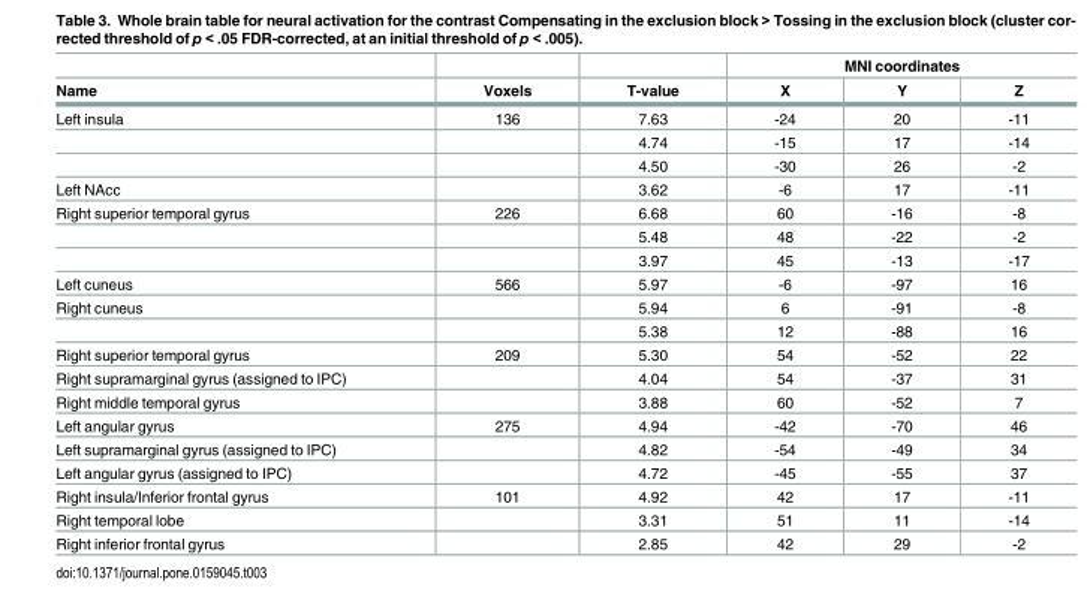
<table><thead><tr><td rowspan="2">Name</td><td rowspan="2">Voxels</td><td rowspan="2">T-value</td><td colspan="3">MNI coordinates</td></tr><tr><td>X</td><td>Y</td><td>Z</td></tr></thead><tbody><tr><td rowspan="3">Left insula</td><td>136</td><td>7.63</td><td>-24</td><td>20</td><td>-11</td></tr><tr><td></td><td>4.74</td><td>-15</td><td>17</td><td>-14</td></tr><tr><td></td><td>4.50</td><td>-30</td><td>26</td><td>-2</td></tr><tr><td>Left NAcc</td><td></td><td>3.62</td><td>-6</td><td>17</td><td>-11</td></tr><tr><td rowspan="3">Right superior temporal gyrus</td><td>226</td><td>6.68</td><td>60</td><td>-16</td><td>-8</td></tr><tr><td></td><td>5.48</td><td>48</td><td>-22</td><td>-2</td></tr><tr><td></td><td>3.97</td><td>45</td><td>-13</td><td>-17</td></tr><tr><td>Left cuneus</td><td>566</td><td>5.97</td><td>-6</td><td>-97</td><td>16</td></tr><tr><td rowspan="2">Right cuneus</td><td></td><td>5.94</td><td>6</td><td>-91</td><td>-8</td></tr><tr><td></td><td>5.38</td><td>12</td><td>-88</td><td>16</td></tr><tr><td>Right superior temporal gyrus</td><td>209</td><td>5.30</td><td>54</td><td>-52</td><td>22</td></tr><tr><td>Right supramarginal gyrus (assigned to IPC)</td><td></td><td>4.04</td><td>54</td><td>-37</td><td>31</td></tr><tr><td>Right middle temporal gyrus</td><td></td><td>3.88</td><td>60</td><td>-52</td><td>7</td></tr><tr><td>Left angular gyrus</td><td>275</td><td>4.94</td><td>-42</td><td>-70</td><td>46</td></tr><tr><td>Left supramarginal gyrus (assigned to IPC)</td><td></td><td>4.82</td><td>-54</td><td>-49</td><td>34</td></tr><tr><td>Left angular gyrus (assigned to IPC)</td><td></td><td>4.72</td><td>-45</td><td>-55</td><td>37</td></tr><tr><td>Right insula/Inferior frontal gyrus</td><td>101</td><td>4.92</td><td>42</td><td>17</td><td>-11</td></tr><tr><td>Right temporal lobe</td><td></td><td>3.31</td><td>51</td><td>11</td><td>-14</td></tr><tr><td>Right inferior frontal gyrus</td><td></td><td>2.85</td><td>42</td><td>29</td><td>-2</td></tr></tbody></table>